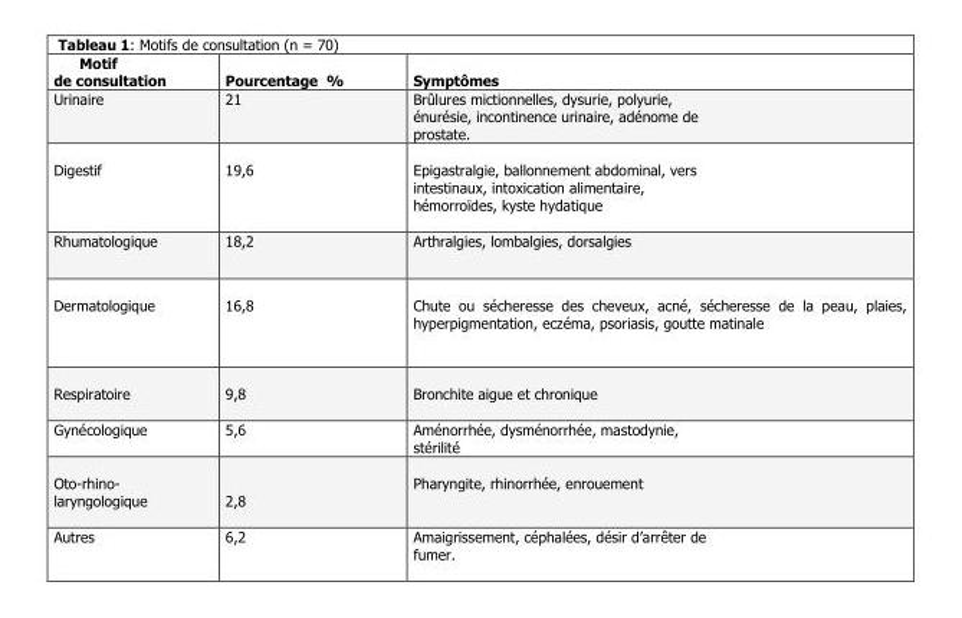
<table><thead><tr><td>Motif de consultation</td><td>Pourcentage %</td><td>Symptômes</td></tr></thead><tbody><tr><td>Urinaire</td><td>21</td><td>Brûlures mictionnelles, dysurie, polyurie, énurésie, incontinence urinaire, adénome de prostate.</td></tr><tr><td>Digestif</td><td>19,6</td><td>Epigastralgie, ballonnement abdominal, vers intestinaux, intoxication alimentaire, hémorroïdes, kyste hydatique</td></tr><tr><td>Rhumatologique</td><td>18,2</td><td>Arthralgies, lombalgies, dorsalgies</td></tr><tr><td>Dermatologique</td><td>16,8</td><td>Chute ou sécheresse des cheveux, acné, sécheresse de la peau, plaies, hyperpigmentation, eczéma, psoriasis, goutte matinale</td></tr><tr><td>Respiratoire</td><td>9,8</td><td>Bronchite aigue et chronique</td></tr><tr><td>Gynécologique</td><td>5,6</td><td>Aménorrhée, dysménorrhée, mastodynie, stérilité</td></tr><tr><td>Oto-rhino- laryngologique</td><td>2,8</td><td>Pharyngite, rhinorrhée, enrouement</td></tr><tr><td>Autres</td><td>6,2</td><td>Amaigrissement, céphalées, désir d’arrêter de fumer.</td></tr></tbody></table>